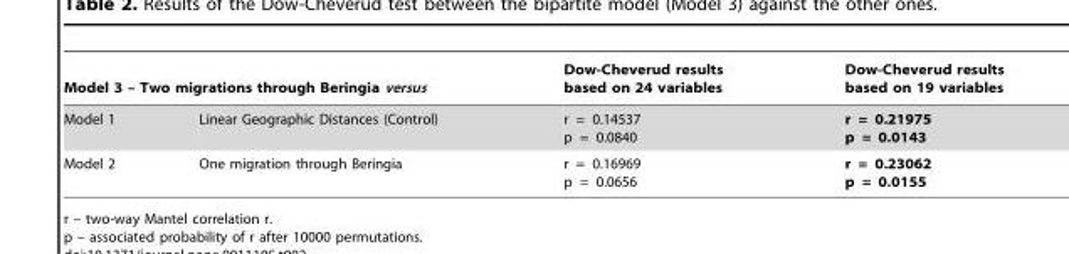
<table><thead><tr><td colspan="2">Model 3 – Two migrations through Beringia versus</td><td rowspan="2">Dow-Cheverud results based on 24 variables r = 0.14537 p = 0.0840</td><td rowspan="2">Dow-Cheverud results based on 19 variables r = 0.21975 p = 0.0143</td></tr><tr><td>Model 1</td><td>Linear Geographic Distances (Control)</td></tr></thead><tbody><tr><td>Model 2</td><td>One migration through Beringia</td><td>r = 0.16969 p = 0.0656</td><td>r = 0.23062 p = 0.0155</td></tr></tbody></table>